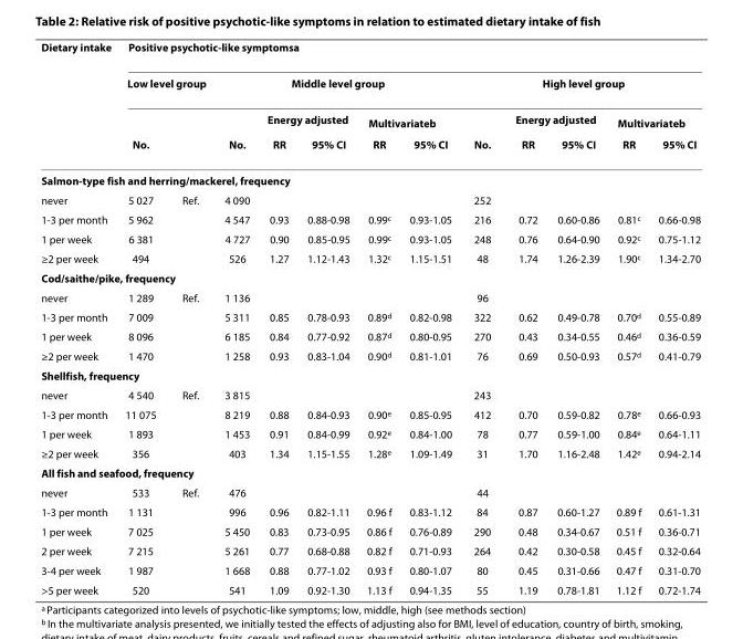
<table><thead><tr><td rowspan="4">Dietary intake</td><td colspan="12">Positive psychotic-like symptoms<sup>a</sup></td></tr><tr><td colspan="2">Low level group</td><td colspan="5">Middle level group</td><td colspan="5">High level group</td></tr><tr><td rowspan="2">No.</td><td rowspan="2"></td><td rowspan="2">No.</td><td colspan="2">Energy adjusted</td><td colspan="2">Multivariate<sup>b</sup></td><td rowspan="2">No.</td><td colspan="2">Energy adjusted</td><td colspan="2">Multivariate<sup>b</sup></td></tr><tr><td>RR</td><td>95% CI</td><td>RR</td><td>95% CI</td><td>RR</td><td>95% CI</td><td>RR</td><td>95% CI</td></tr></thead><tbody><tr><td colspan="13">Salmon-type fish and herring/mackerel, frequency</td></tr><tr><td>never</td><td>5 027</td><td>Ref.</td><td>4 090</td><td></td><td></td><td></td><td></td><td>252</td><td></td><td></td><td></td><td></td></tr><tr><td>1-3 per month</td><td>5 962</td><td></td><td>4 547</td><td>0.93</td><td>0.88-0.98</td><td>0.99<sup>c</sup></td><td>0.93-1.05</td><td>216</td><td>0.72</td><td>0.60-0.86</td><td>0.81<sup>c</sup></td><td>0.66-0.98</td></tr><tr><td>1 per week</td><td>6 381</td><td></td><td>4 727</td><td>0.90</td><td>0.85-0.95</td><td>0.99<sup>c</sup></td><td>0.93-1.05</td><td>248</td><td>0.76</td><td>0.64-0.90</td><td>0.92<sup>c</sup></td><td>0.75-1.12</td></tr><tr><td>≥2 per week</td><td>494</td><td></td><td>526</td><td>1.27</td><td>1.12-1.43</td><td>1.32<sup>c</sup></td><td>1.15-1.51</td><td>48</td><td>1.74</td><td>1.26-2.39</td><td>1.90<sup>c</sup></td><td>1.34-2.70</td></tr><tr><td colspan="13">Cod/saithe/pike, frequency</td></tr><tr><td>never</td><td>1 289</td><td>Ref.</td><td>1 136</td><td></td><td></td><td></td><td></td><td>96</td><td></td><td></td><td></td><td></td></tr><tr><td>1-3 per month</td><td>7 009</td><td></td><td>5 311</td><td>0.85</td><td>0.78-0.93</td><td>0.89<sup>d</sup></td><td>0.82-0.98</td><td>322</td><td>0.62</td><td>0.49-0.78</td><td>0.70<sup>d</sup></td><td>0.55-0.89</td></tr><tr><td>1 per week</td><td>8 096</td><td></td><td>6 185</td><td>0.84</td><td>0.77-0.92</td><td>0.87<sup>d</sup></td><td>0.80-0.95</td><td>270</td><td>0.43</td><td>0.34-0.55</td><td>0.46<sup>d</sup></td><td>0.36-0.59</td></tr><tr><td>≥2 per week</td><td>1 470</td><td></td><td>1 258</td><td>0.93</td><td>0.83-1.04</td><td>0.90<sup>d</sup></td><td>0.81-1.01</td><td>76</td><td>0.69</td><td>0.50-0.93</td><td>0.57<sup>d</sup></td><td>0.41-0.79</td></tr><tr><td colspan="13">Shellfish, frequency</td></tr><tr><td>never</td><td>4 540</td><td>Ref.</td><td>3 815</td><td></td><td></td><td></td><td></td><td>243</td><td></td><td></td><td></td><td></td></tr><tr><td>1-3 per month</td><td>11 075</td><td></td><td>8 219</td><td>0.88</td><td>0.84-0.93</td><td>0.90<sup>e</sup></td><td>0.85-0.95</td><td>412</td><td>0.70</td><td>0.59-0.82</td><td>0.78<sup>e</sup></td><td>0.66-0.93</td></tr><tr><td>1 per week</td><td>1 893</td><td></td><td>1 453</td><td>0.91</td><td>0.84-0.99</td><td>0.92<sup>e</sup></td><td>0.84-1.00</td><td>78</td><td>0.77</td><td>0.59-1.00</td><td>0.84<sup>e</sup></td><td>0.64-1.11</td></tr><tr><td>≥2 per week</td><td>356</td><td></td><td>403</td><td>1.34</td><td>1.15-1.55</td><td>1.28<sup>e</sup></td><td>1.09-1.49</td><td>31</td><td>1.70</td><td>1.16-2.48</td><td>1.42<sup>e</sup></td><td>0.94-2.14</td></tr><tr><td colspan="13">All fish and seafood, frequency</td></tr><tr><td>never</td><td>533</td><td>Ref.</td><td>476</td><td></td><td></td><td></td><td></td><td>44</td><td></td><td></td><td></td><td></td></tr><tr><td>1-3 per month</td><td>1 131</td><td></td><td>996</td><td>0.96</td><td>0.82-1.11</td><td>0.96 f</td><td>0.83-1.12</td><td>84</td><td>0.87</td><td>0.60-1.27</td><td>0.89 f</td><td>0.61-1.31</td></tr><tr><td>1 per week</td><td>7 025</td><td></td><td>5 450</td><td>0.83</td><td>0.73-0.95</td><td>0.86 f</td><td>0.76-0.89</td><td>290</td><td>0.48</td><td>0.34-0.67</td><td>0.51 f</td><td>0.36-0.71</td></tr><tr><td>2 per week</td><td>7 215</td><td></td><td>5 261</td><td>0.77</td><td>0.68-0.88</td><td>0.82 f</td><td>0.71-0.93</td><td>264</td><td>0.42</td><td>0.30-0.58</td><td>0.45 f</td><td>0.32-0.64</td></tr><tr><td>3-4 per week</td><td>1 987</td><td></td><td>1 668</td><td>0.88</td><td>0.77-1.02</td><td>0.93 f</td><td>0.80-1.07</td><td>80</td><td>0.45</td><td>0.31-0.66</td><td>0.47 f</td><td>0.31-0.70</td></tr><tr><td>&gt;5 per week</td><td>520</td><td></td><td>541</td><td>1.09</td><td>0.92-1.30</td><td>1.13 f</td><td>0.94-1.35</td><td>55</td><td>1.19</td><td>0.78-1.81</td><td>1.12 f</td><td>0.72-1.74</td></tr></tbody></table>